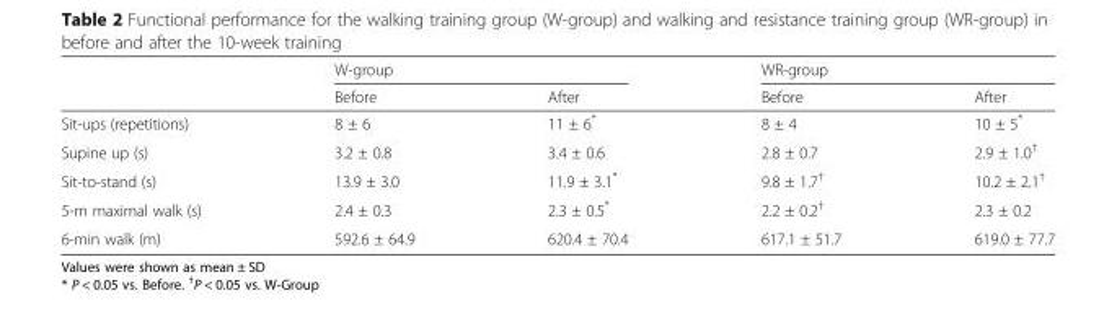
<table><thead><tr><td rowspan="2"></td><td colspan="2">W-group</td><td colspan="2">WR-group</td></tr><tr><td>Before</td><td>After</td><td>Before</td><td>After</td></tr></thead><tbody><tr><td>Sit-ups (repetitions)</td><td>8 ± 6</td><td>11 ± 6*</td><td>8 ± 4</td><td>10 ± 5*</td></tr><tr><td>Supine up (s)</td><td>3.2 ± 0.8</td><td>3.4 ± 0.6</td><td>2.8 ± 0.7</td><td>2.9 ± 1.0<sup>†</sup></td></tr><tr><td>Sit-to-stand (s)</td><td>13.9 ± 3.0</td><td>11.9 ± 3.1*</td><td>9.8 ± 1.7<sup>†</sup></td><td>10.2 ± 2.1<sup>†</sup></td></tr><tr><td>5-m maximal walk (s)</td><td>2.4 ± 0.3</td><td>2.3 ± 0.5*</td><td>2.2 ± 0.2<sup>†</sup></td><td>2.3 ± 0.2</td></tr><tr><td>6-min walk (m)</td><td>592.6 ± 64.9</td><td>620.4 ± 70.4</td><td>617.1 ± 51.7</td><td>619.0 ± 77.7</td></tr></tbody></table>